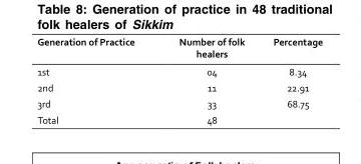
<table><thead><tr><td>Generation of Practice</td><td>Number of folk healers</td><td>Percentage</td></tr></thead><tbody><tr><td>1st</td><td>04</td><td>8.34</td></tr><tr><td>2nd</td><td>11</td><td>22.91</td></tr><tr><td>3rd</td><td>33</td><td>68.75</td></tr><tr><td>Total</td><td>48</td><td></td></tr></tbody></table>